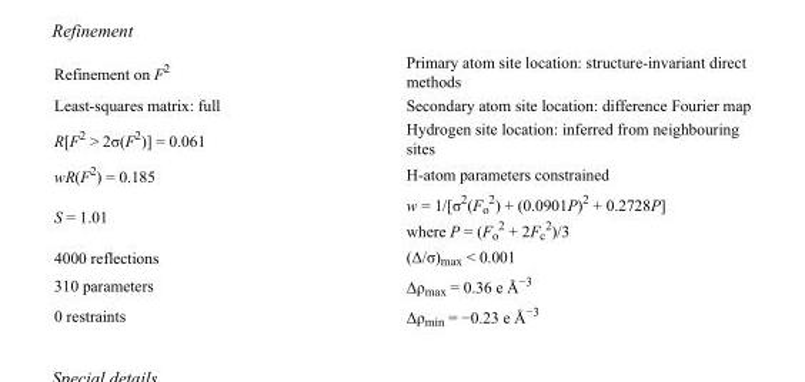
<table><tbody><tr><td>Refinement on F<sup>2</sup></td><td>Primary atom site location: structure-invariant direct methods</td></tr><tr><td>Least-squares matrix: full</td><td>Secondary atom site location: difference Fourier map</td></tr><tr><td>R[F<sup>2</sup> &gt; 2σ(F<sup>2</sup>)] = 0.061</td><td>Hydrogen site location: inferred from neighbouring sites</td></tr><tr><td>wR(F<sup>2</sup>) = 0.185</td><td>H-atom parameters constrained</td></tr><tr><td>S = 1.01</td><td>w = 1/[σ<sup>2</sup>(F<sub>o</sub> <sup>2</sup>) + (0.0901P)<sup>2</sup> + 0.2728P] where P = (F<sub>o</sub> <sup>2</sup> + 2F<sub>c</sub> <sup>2</sup>)/3</td></tr><tr><td>4000 reflections</td><td>(Δ/σ)<sub>max</sub> &lt; 0.001</td></tr><tr><td>310 parameters</td><td>Δρ<sub>max</sub> = 0.36 e Å<sup>−3</sup></td></tr><tr><td>0 restraints</td><td>Δρ<sub>min</sub> = −0.23 e Å<sup>−3</sup></td></tr></tbody></table>